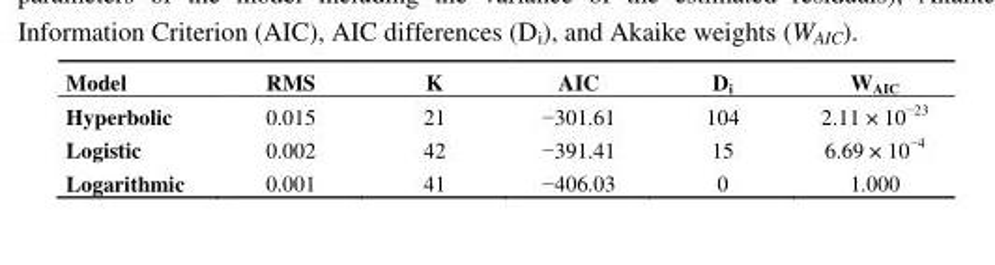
<table><thead><tr><td>Model</td><td>RMS</td><td>K</td><td>AIC</td><td>D<sub>i</sub></td><td>W<sub>AIC</sub></td></tr></thead><tbody><tr><td>Hyperbolic</td><td>0.015</td><td>21</td><td>−301.61</td><td>104</td><td>2.11 × 10<sup>−23</sup></td></tr><tr><td>Logistic</td><td>0.002</td><td>42</td><td>−391.41</td><td>15</td><td>6.69 × 10<sup>−4</sup></td></tr><tr><td>Logarithmic</td><td>0.001</td><td>41</td><td>−406.03</td><td>0</td><td>1.000</td></tr></tbody></table>